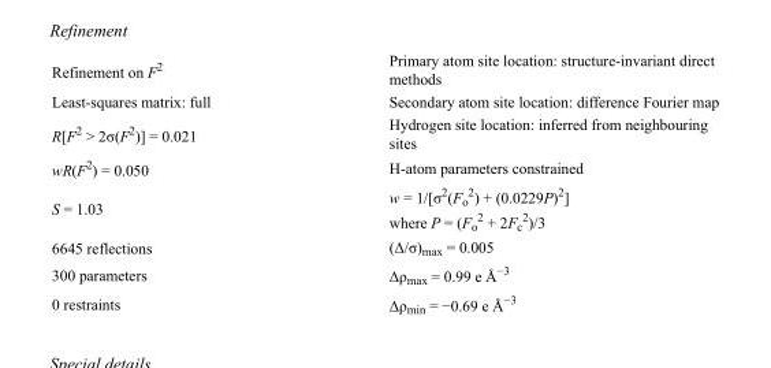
<table><tbody><tr><td>Refinement on F<sup>2</sup></td><td>Primary atom site location: structure-invariant direct methods</td></tr><tr><td>Least-squares matrix: full</td><td>Secondary atom site location: difference Fourier map</td></tr><tr><td>R[F<sup>2</sup> &gt; 2σ(F<sup>2</sup>)] = 0.021</td><td>Hydrogen site location: inferred from neighbouring sites</td></tr><tr><td>wR(F<sup>2</sup>) = 0.050</td><td>H-atom parameters constrained</td></tr><tr><td>S = 1.03</td><td>w = 1/[σ<sup>2</sup>(F<sub>o</sub> <sup>2</sup>) + (0.0229P)<sup>2</sup>] where P = (F<sub>o</sub> <sup>2</sup> + 2F<sub>c</sub> <sup>2</sup>)/3</td></tr><tr><td>6645 reflections</td><td>(Δ/σ)<sub>max</sub> = 0.005</td></tr><tr><td>300 parameters</td><td>Δρ<sub>max</sub> = 0.99 e Å<sup>−3</sup></td></tr><tr><td>0 restraints</td><td>Δρ<sub>min</sub> = −0.69 e Å<sup>−3</sup></td></tr></tbody></table>